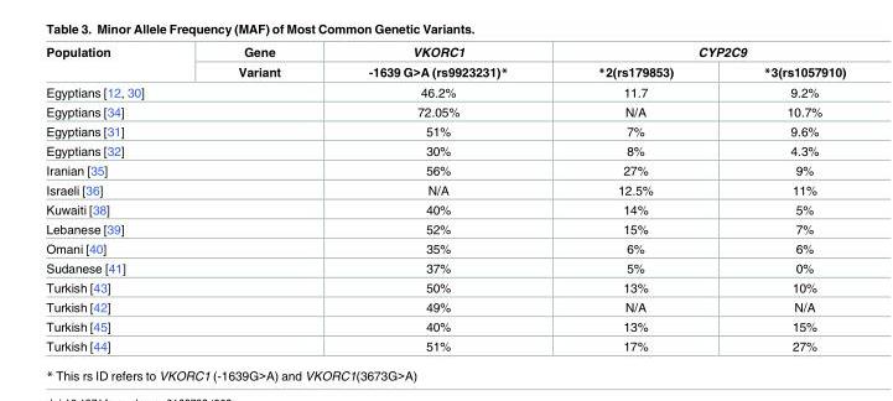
<table><thead><tr><td rowspan="2">Population</td><td rowspan="2">Gene Variant</td><td rowspan="2">VKORC1 -1639 G&gt;A (rs9923231)*</td><td colspan="2">CYP2C9</td></tr><tr><td>*2(rs179853)</td><td>*3(rs1057910)</td></tr></thead><tbody><tr><td colspan="2">Egyptians [12, 30]</td><td>46.2%</td><td>11.7</td><td>9.2%</td></tr><tr><td colspan="2">Egyptians [34]</td><td>72.05%</td><td>N/A</td><td>10.7%</td></tr><tr><td colspan="2">Egyptians [31]</td><td>51%</td><td>7%</td><td>9.6%</td></tr><tr><td colspan="2">Egyptians [32]</td><td>30%</td><td>8%</td><td>4.3%</td></tr><tr><td colspan="2">Iranian [35]</td><td>56%</td><td>27%</td><td>9%</td></tr><tr><td colspan="2">Israeli [36]</td><td>N/A</td><td>12.5%</td><td>11%</td></tr><tr><td colspan="2">Kuwaiti [38]</td><td>40%</td><td>14%</td><td>5%</td></tr><tr><td colspan="2">Lebanese [39]</td><td>52%</td><td>15%</td><td>7%</td></tr><tr><td colspan="2">Omani [40]</td><td>35%</td><td>6%</td><td>6%</td></tr><tr><td colspan="2">Sudanese [41]</td><td>37%</td><td>5%</td><td>0%</td></tr><tr><td colspan="2">Turkish [43]</td><td>50%</td><td>13%</td><td>10%</td></tr><tr><td colspan="2">Turkish [42]</td><td>49%</td><td>N/A</td><td>N/A</td></tr><tr><td colspan="2">Turkish [45]</td><td>40%</td><td>13%</td><td>15%</td></tr><tr><td colspan="2">Turkish [44]</td><td>51%</td><td>17%</td><td>27%</td></tr></tbody></table>